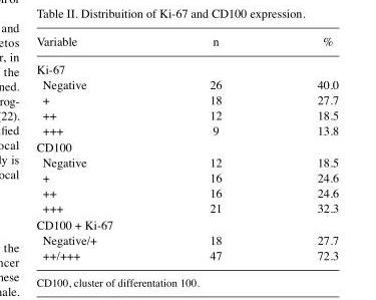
<table><thead><tr><td>Variable</td><td>n</td><td>%</td></tr></thead><tbody><tr><td colspan="3">Ki-67</td></tr><tr><td>Negative</td><td>26</td><td>40.0</td></tr><tr><td>+</td><td>18</td><td>27.7</td></tr><tr><td>++</td><td>12</td><td>18.5</td></tr><tr><td>+++</td><td>9</td><td>13.8</td></tr><tr><td colspan="3">CD100</td></tr><tr><td>Negative</td><td>12</td><td>18.5</td></tr><tr><td>+</td><td>16</td><td>24.6</td></tr><tr><td>++</td><td>16</td><td>24.6</td></tr><tr><td>+++</td><td>21</td><td>32.3</td></tr><tr><td colspan="3">CD100 + Ki-67</td></tr><tr><td>Negative/+</td><td>18</td><td>27.7</td></tr><tr><td>++/+++</td><td>47</td><td>72.3</td></tr></tbody></table>